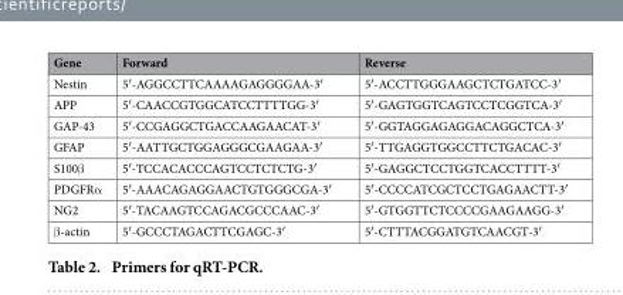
<table><thead><tr><td>Gene</td><td>Forward</td><td>Reverse</td></tr></thead><tbody><tr><td>Nestin</td><td>5′ -AGGCCTTCAAAAGAGGGGAA-3′</td><td>5′ -ACCTTGGGAAGCTCTGATCC-3′</td></tr><tr><td>APP</td><td>5′ -CAACCGTGGCATCCTTTTGG-3′</td><td>5′ -GAGTGGTCAGTCCTCGGTCA-3′</td></tr><tr><td>GAP-43</td><td>5′ -CCGAGGCTGACCAAGAACAT-3′</td><td>5′ -GGTAGGAGAGGACAGGCTCA-3′</td></tr><tr><td>GFAP</td><td>5′ -AATTGCTGGAGGGCGAAGAA-3′</td><td>5′ -TTGAGGTGGCCTTCTGACAC-3′</td></tr><tr><td>S100β</td><td>5′ -TCCACACCCAGTCCTCTCTG-3′</td><td>5′ -GAGGCTCCTGGTCACCTTTT-3′</td></tr><tr><td>PDGFRα</td><td>5′ -AAACAGAGGAACTGTGGGCGA-3′</td><td>5′ -CCCCATCGCTCCTGAGAACTT-3′</td></tr><tr><td>NG2</td><td>5′ -TACAAGTCCAGACGCCCAAC-3′</td><td>5′ -GTGGTTCTCCCCGAAGAAGG-3′</td></tr><tr><td>β -actin</td><td>5′ -GCCCTAGACTTCGAGC-3′</td><td>5′ -CTTTACGGATGTCAACGT-3′</td></tr></tbody></table>